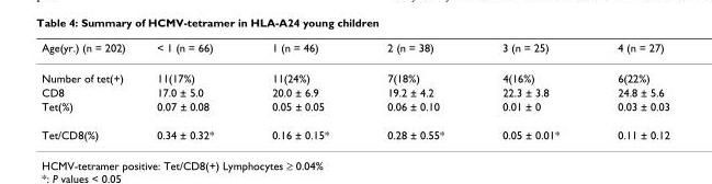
<table><thead><tr><td>Age(yr.) (n = 202)</td><td>&lt; 1 (n = 66)</td><td>1 (n = 46)</td><td>2 (n = 38)</td><td>3 (n = 25)</td><td>4 (n = 27)</td></tr></thead><tbody><tr><td>Number of tet(+)</td><td>11(17%)</td><td>11(24%)</td><td>7(18%)</td><td>4(16%)</td><td>6(22%)</td></tr><tr><td>CD8</td><td>17.0 ± 5.0</td><td>20.0 ± 6.9</td><td>19.2 ± 4.2</td><td>22.3 ± 3.8</td><td>24.8 ± 5.6</td></tr><tr><td>Tet(%)</td><td>0.07 ± 0.08</td><td>0.05 ± 0.05</td><td>0.06 ± 0.10</td><td>0.01 ± 0</td><td>0.03 ± 0.03</td></tr><tr><td>Tet/CD8(%)</td><td>0.34 ± 0.32*</td><td>0.16 ± 0.15*</td><td>0.28 ± 0.55*</td><td>0.05 ± 0.01*</td><td>0.11 ± 0.12</td></tr></tbody></table>